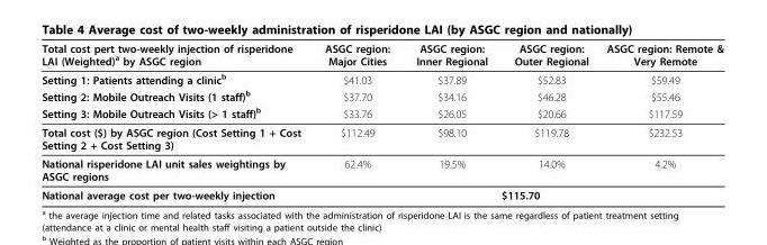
<table><thead><tr><td>Total cost pert two-weekly injection of risperidone LAI (Weighted)<sup>a</sup> by ASGC region</td><td>ASGC region: Major Cities</td><td>ASGC region: Inner Regional</td><td>ASGC region: Outer Regional</td><td>ASGC region: Remote &amp; Very Remote</td></tr></thead><tbody><tr><td>Setting 1: Patients attending a clinic<sup>b</sup></td><td>$41.03</td><td>$37.89</td><td>$52.83</td><td>$59.49</td></tr><tr><td>Setting 2: Mobile Outreach Visits (1 staff)<sup>b</sup></td><td>$37.70</td><td>$34.16</td><td>$46.28</td><td>$55.46</td></tr><tr><td>Setting 3: Mobile Outreach Visits (&gt; 1 staff)<sup>b</sup></td><td>$33.76</td><td>$26.05</td><td>$20.66</td><td>$117.59</td></tr><tr><td>Total cost ($) by ASGC region (Cost Setting 1 + Cost Setting 2 + Cost Setting 3)</td><td>$112.49</td><td>$98.10</td><td>$119.78</td><td>$232.53</td></tr><tr><td>National risperidone LAI unit sales weightings by ASGC regions</td><td>62.4%</td><td>19.5%</td><td>14.0%</td><td>4.2%</td></tr><tr><td>National average cost per two-weekly injection</td><td colspan="4">$115.70</td></tr></tbody></table>